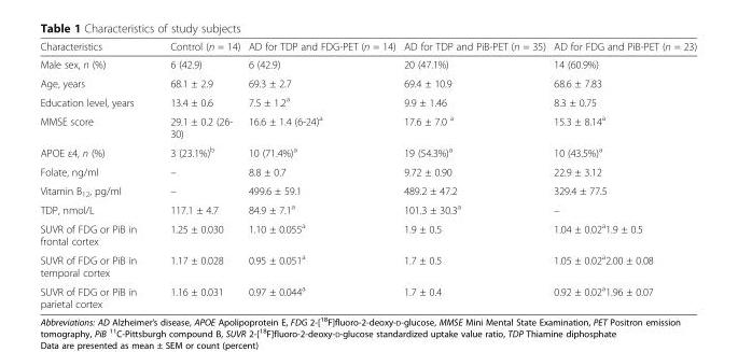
<table><thead><tr><td>Characteristics</td><td>Control (n = 14)</td><td>AD for TDP and FDG-PET (n = 14)</td><td>AD for TDP and PiB-PET (n = 35)</td><td>AD for FDG and PiB-PET (n = 23)</td></tr></thead><tbody><tr><td>Male sex, n (%)</td><td>6 (42.9)</td><td>6 (42.9)</td><td>20 (47.1%)</td><td>14 (60.9%)</td></tr><tr><td>Age, years</td><td>68.1 ± 2.9</td><td>69.3 ± 2.7</td><td>69.4 ± 10.9</td><td>68.6 ± 7.83</td></tr><tr><td>Education level, years</td><td>13.4 ± 0.6</td><td>7.5 ± 1.2<sup>a</sup></td><td>9.9 ± 1.46</td><td>8.3 ± 0.75</td></tr><tr><td>MMSE score</td><td>29.1 ± 0.2 (26- 30)</td><td>16.6 ± 1.4 (6-24)<sup>a</sup></td><td>17.6 ± 7.0 <sup>a</sup></td><td>15.3 ± 8.14<sup>a</sup></td></tr><tr><td>APOE ε4, n (%)</td><td>3 (23.1%)<sup>b</sup></td><td>10 (71.4%)<sup>a</sup></td><td>19 (54.3%)<sup>a</sup></td><td>10 (43.5%)<sup>a</sup></td></tr><tr><td>Folate, ng/ml</td><td>–</td><td>8.8 ± 0.7</td><td>9.72 ± 0.90</td><td>22.9 ± 3.12</td></tr><tr><td>Vitamin B<sub>12</sub>, pg/ml</td><td>–</td><td>499.6 ± 59.1</td><td>489.2 ± 47.2</td><td>329.4 ± 77.5</td></tr><tr><td>TDP, nmol/L</td><td>117.1 ± 4.7</td><td>84.9 ± 7.1<sup>a</sup></td><td>101.3 ± 30.3<sup>a</sup></td><td>–</td></tr><tr><td>SUVR of FDG or PiB in frontal cortex</td><td>1.25 ± 0.030</td><td>1.10 ± 0.055<sup>a</sup></td><td>1.9 ± 0.5</td><td>1.04 ± 0.02<sup>a</sup>1.9 ± 0.5</td></tr><tr><td>SUVR of FDG or PiB in temporal cortex</td><td>1.17 ± 0.028</td><td>0.95 ± 0.051<sup>a</sup></td><td>1.7 ± 0.5</td><td>1.05 ± 0.02<sup>a</sup>2.00 ± 0.08</td></tr><tr><td>SUVR of FDG or PiB in parietal cortex</td><td>1.16 ± 0.031</td><td>0.97 ± 0.044<sup>a</sup></td><td>1.7 ± 0.4</td><td>0.92 ± 0.02<sup>a</sup>1.96 ± 0.07</td></tr></tbody></table>